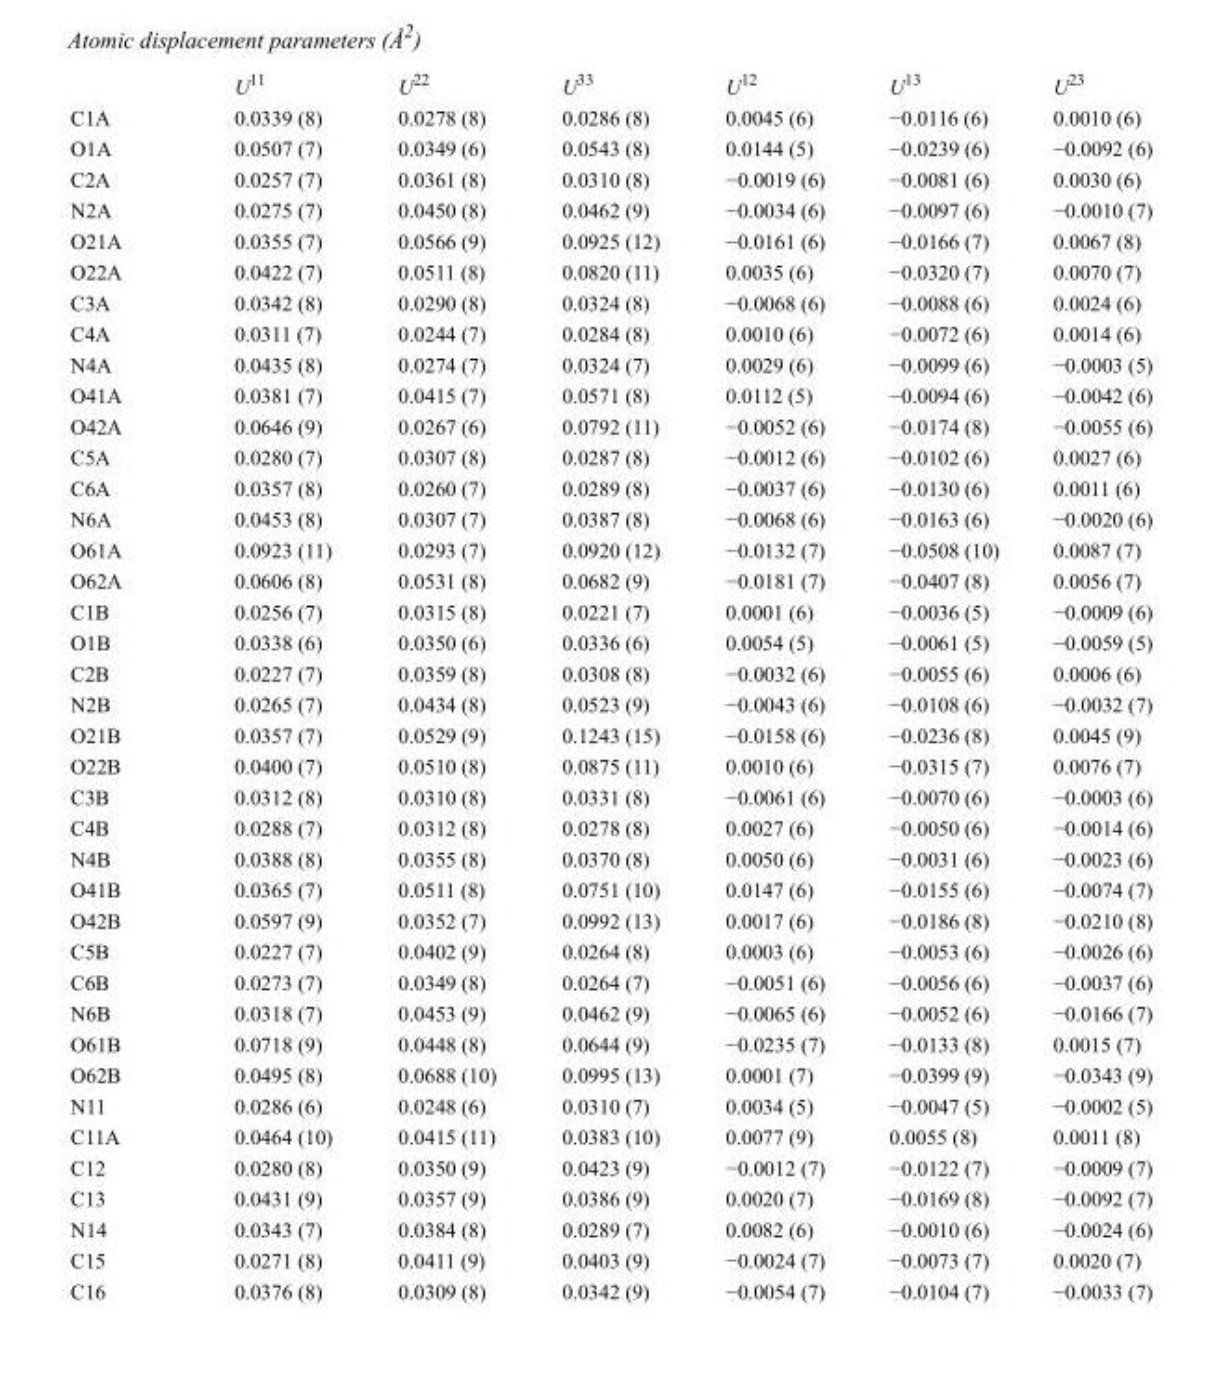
<table><thead><tr><td></td><td>U<sup>11</sup></td><td>U<sup>22</sup></td><td>U<sup>33</sup></td><td>U<sup>12</sup></td><td>U<sup>13</sup></td><td>U<sup>23</sup></td></tr></thead><tbody><tr><td>C1A</td><td>0.0339 (8)</td><td>0.0278 (8)</td><td>0.0286 (8)</td><td>0.0045 (6)</td><td>−0.0116 (6)</td><td>0.0010 (6)</td></tr><tr><td>O1A</td><td>0.0507 (7)</td><td>0.0349 (6)</td><td>0.0543 (8)</td><td>0.0144 (5)</td><td>−0.0239 (6)</td><td>−0.0092 (6)</td></tr><tr><td>C2A</td><td>0.0257 (7)</td><td>0.0361 (8)</td><td>0.0310 (8)</td><td>−0.0019 (6)</td><td>−0.0081 (6)</td><td>0.0030 (6)</td></tr><tr><td>N2A</td><td>0.0275 (7)</td><td>0.0450 (8)</td><td>0.0462 (9)</td><td>−0.0034 (6)</td><td>−0.0097 (6)</td><td>−0.0010 (7)</td></tr><tr><td>O21A</td><td>0.0355 (7)</td><td>0.0566 (9)</td><td>0.0925 (12)</td><td>−0.0161 (6)</td><td>−0.0166 (7)</td><td>0.0067 (8)</td></tr><tr><td>O22A</td><td>0.0422 (7)</td><td>0.0511 (8)</td><td>0.0820 (11)</td><td>0.0035 (6)</td><td>−0.0320 (7)</td><td>0.0070 (7)</td></tr><tr><td>C3A</td><td>0.0342 (8)</td><td>0.0290 (8)</td><td>0.0324 (8)</td><td>−0.0068 (6)</td><td>−0.0088 (6)</td><td>0.0024 (6)</td></tr><tr><td>C4A</td><td>0.0311 (7)</td><td>0.0244 (7)</td><td>0.0284 (8)</td><td>0.0010 (6)</td><td>−0.0072 (6)</td><td>0.0014 (6)</td></tr><tr><td>N4A</td><td>0.0435 (8)</td><td>0.0274 (7)</td><td>0.0324 (7)</td><td>0.0029 (6)</td><td>−0.0099 (6)</td><td>−0.0003 (5)</td></tr><tr><td>O41A</td><td>0.0381 (7)</td><td>0.0415 (7)</td><td>0.0571 (8)</td><td>0.0112 (5)</td><td>−0.0094 (6)</td><td>−0.0042 (6)</td></tr><tr><td>O42A</td><td>0.0646 (9)</td><td>0.0267 (6)</td><td>0.0792 (11)</td><td>−0.0052 (6)</td><td>−0.0174 (8)</td><td>−0.0055 (6)</td></tr><tr><td>C5A</td><td>0.0280 (7)</td><td>0.0307 (8)</td><td>0.0287 (8)</td><td>−0.0012 (6)</td><td>−0.0102 (6)</td><td>0.0027 (6)</td></tr><tr><td>C6A</td><td>0.0357 (8)</td><td>0.0260 (7)</td><td>0.0289 (8)</td><td>−0.0037 (6)</td><td>−0.0130 (6)</td><td>0.0011 (6)</td></tr><tr><td>N6A</td><td>0.0453 (8)</td><td>0.0307 (7)</td><td>0.0387 (8)</td><td>−0.0068 (6)</td><td>−0.0163 (6)</td><td>−0.0020 (6)</td></tr><tr><td>O61A</td><td>0.0923 (11)</td><td>0.0293 (7)</td><td>0.0920 (12)</td><td>−0.0132 (7)</td><td>−0.0508 (10)</td><td>0.0087 (7)</td></tr><tr><td>O62A</td><td>0.0606 (8)</td><td>0.0531 (8)</td><td>0.0682 (9)</td><td>−0.0181 (7)</td><td>−0.0407 (8)</td><td>0.0056 (7)</td></tr><tr><td>C1B</td><td>0.0256 (7)</td><td>0.0315 (8)</td><td>0.0221 (7)</td><td>0.0001 (6)</td><td>−0.0036 (5)</td><td>−0.0009 (6)</td></tr><tr><td>O1B</td><td>0.0338 (6)</td><td>0.0350 (6)</td><td>0.0336 (6)</td><td>0.0054 (5)</td><td>−0.0061 (5)</td><td>−0.0059 (5)</td></tr><tr><td>C2B</td><td>0.0227 (7)</td><td>0.0359 (8)</td><td>0.0308 (8)</td><td>−0.0032 (6)</td><td>−0.0055 (6)</td><td>0.0006 (6)</td></tr><tr><td>N2B</td><td>0.0265 (7)</td><td>0.0434 (8)</td><td>0.0523 (9)</td><td>−0.0043 (6)</td><td>−0.0108 (6)</td><td>−0.0032 (7)</td></tr><tr><td>O21B</td><td>0.0357 (7)</td><td>0.0529 (9)</td><td>0.1243 (15)</td><td>−0.0158 (6)</td><td>−0.0236 (8)</td><td>0.0045 (9)</td></tr><tr><td>O22B</td><td>0.0400 (7)</td><td>0.0510 (8)</td><td>0.0875 (11)</td><td>0.0010 (6)</td><td>−0.0315 (7)</td><td>0.0076 (7)</td></tr><tr><td>C3B</td><td>0.0312 (8)</td><td>0.0310 (8)</td><td>0.0331 (8)</td><td>−0.0061 (6)</td><td>−0.0070 (6)</td><td>−0.0003 (6)</td></tr><tr><td>C4B</td><td>0.0288 (7)</td><td>0.0312 (8)</td><td>0.0278 (8)</td><td>0.0027 (6)</td><td>−0.0050 (6)</td><td>−0.0014 (6)</td></tr><tr><td>N4B</td><td>0.0388 (8)</td><td>0.0355 (8)</td><td>0.0370 (8)</td><td>0.0050 (6)</td><td>−0.0031 (6)</td><td>−0.0023 (6)</td></tr><tr><td>O41B</td><td>0.0365 (7)</td><td>0.0511 (8)</td><td>0.0751 (10)</td><td>0.0147 (6)</td><td>−0.0155 (6)</td><td>−0.0074 (7)</td></tr><tr><td>O42B</td><td>0.0597 (9)</td><td>0.0352 (7)</td><td>0.0992 (13)</td><td>0.0017 (6)</td><td>−0.0186 (8)</td><td>−0.0210 (8)</td></tr><tr><td>C5B</td><td>0.0227 (7)</td><td>0.0402 (9)</td><td>0.0264 (8)</td><td>0.0003 (6)</td><td>−0.0053 (6)</td><td>−0.0026 (6)</td></tr><tr><td>C6B</td><td>0.0273 (7)</td><td>0.0349 (8)</td><td>0.0264 (7)</td><td>−0.0051 (6)</td><td>−0.0056 (6)</td><td>−0.0037 (6)</td></tr><tr><td>N6B</td><td>0.0318 (7)</td><td>0.0453 (9)</td><td>0.0462 (9)</td><td>−0.0065 (6)</td><td>−0.0052 (6)</td><td>−0.0166 (7)</td></tr><tr><td>O61B</td><td>0.0718 (9)</td><td>0.0448 (8)</td><td>0.0644 (9)</td><td>−0.0235 (7)</td><td>−0.0133 (8)</td><td>0.0015 (7)</td></tr><tr><td>O62B</td><td>0.0495 (8)</td><td>0.0688 (10)</td><td>0.0995 (13)</td><td>0.0001 (7)</td><td>−0.0399 (9)</td><td>−0.0343 (9)</td></tr><tr><td>N11</td><td>0.0286 (6)</td><td>0.0248 (6)</td><td>0.0310 (7)</td><td>0.0034 (5)</td><td>−0.0047 (5)</td><td>−0.0002 (5)</td></tr><tr><td>C11A</td><td>0.0464 (10)</td><td>0.0415 (11)</td><td>0.0383 (10)</td><td>0.0077 (9)</td><td>0.0055 (8)</td><td>0.0011 (8)</td></tr><tr><td>C12</td><td>0.0280 (8)</td><td>0.0350 (9)</td><td>0.0423 (9)</td><td>−0.0012 (7)</td><td>−0.0122 (7)</td><td>−0.0009 (7)</td></tr><tr><td>C13</td><td>0.0431 (9)</td><td>0.0357 (9)</td><td>0.0386 (9)</td><td>0.0020 (7)</td><td>−0.0169 (8)</td><td>−0.0092 (7)</td></tr><tr><td>N14</td><td>0.0343 (7)</td><td>0.0384 (8)</td><td>0.0289 (7)</td><td>0.0082 (6)</td><td>−0.0010 (6)</td><td>−0.0024 (6)</td></tr><tr><td>C15</td><td>0.0271 (8)</td><td>0.0411 (9)</td><td>0.0403 (9)</td><td>−0.0024 (7)</td><td>−0.0073 (7)</td><td>0.0020 (7)</td></tr><tr><td>C16</td><td>0.0376 (8)</td><td>0.0309 (8)</td><td>0.0342 (9)</td><td>−0.0054 (7)</td><td>−0.0104 (7)</td><td>−0.0033 (7)</td></tr></tbody></table>